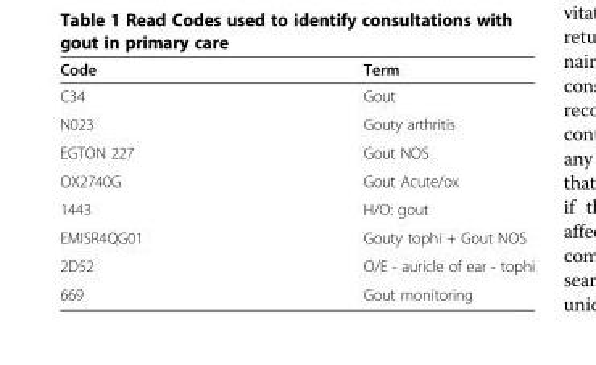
<table><thead><tr><td>Code</td><td>Term</td></tr></thead><tbody><tr><td>C34</td><td>Gout</td></tr><tr><td>N023</td><td>Gouty arthritis</td></tr><tr><td>EGTON 227</td><td>Gout NOS</td></tr><tr><td>OX2740G</td><td>Gout Acute/ox</td></tr><tr><td>1443</td><td>H/O: gout</td></tr><tr><td>EMISR4QG01</td><td>Gouty tophi + Gout NOS</td></tr><tr><td>2D52</td><td>O/E - auricle of ear - tophi</td></tr><tr><td>669</td><td>Gout monitoring</td></tr></tbody></table>